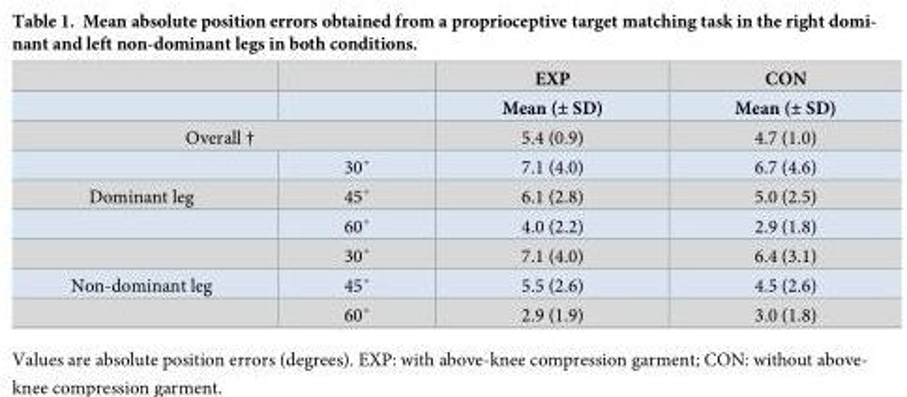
<table><thead><tr><td rowspan="2"></td><td rowspan="2"></td><td rowspan="2">EXP Mean (± SD)</td><td rowspan="2">CON Mean (± SD)</td></tr><tr></tr></thead><tbody><tr><td colspan="2">Overall †</td><td>5.4 (0.9)</td><td>4.7 (1.0)</td></tr><tr><td></td><td>30˚</td><td>7.1 (4.0)</td><td>6.7 (4.6)</td></tr><tr><td rowspan="3">Dominant leg</td><td>45˚</td><td>6.1 (2.8)</td><td>5.0 (2.5)</td></tr><tr><td>60˚</td><td>4.0 (2.2)</td><td>2.9 (1.8)</td></tr><tr><td>30˚</td><td>7.1 (4.0)</td><td>6.4 (3.1)</td></tr><tr><td rowspan="2">Non-dominant leg</td><td>45˚</td><td>5.5 (2.6)</td><td>4.5 (2.6)</td></tr><tr><td>60˚</td><td>2.9 (1.9)</td><td>3.0 (1.8)</td></tr></tbody></table>